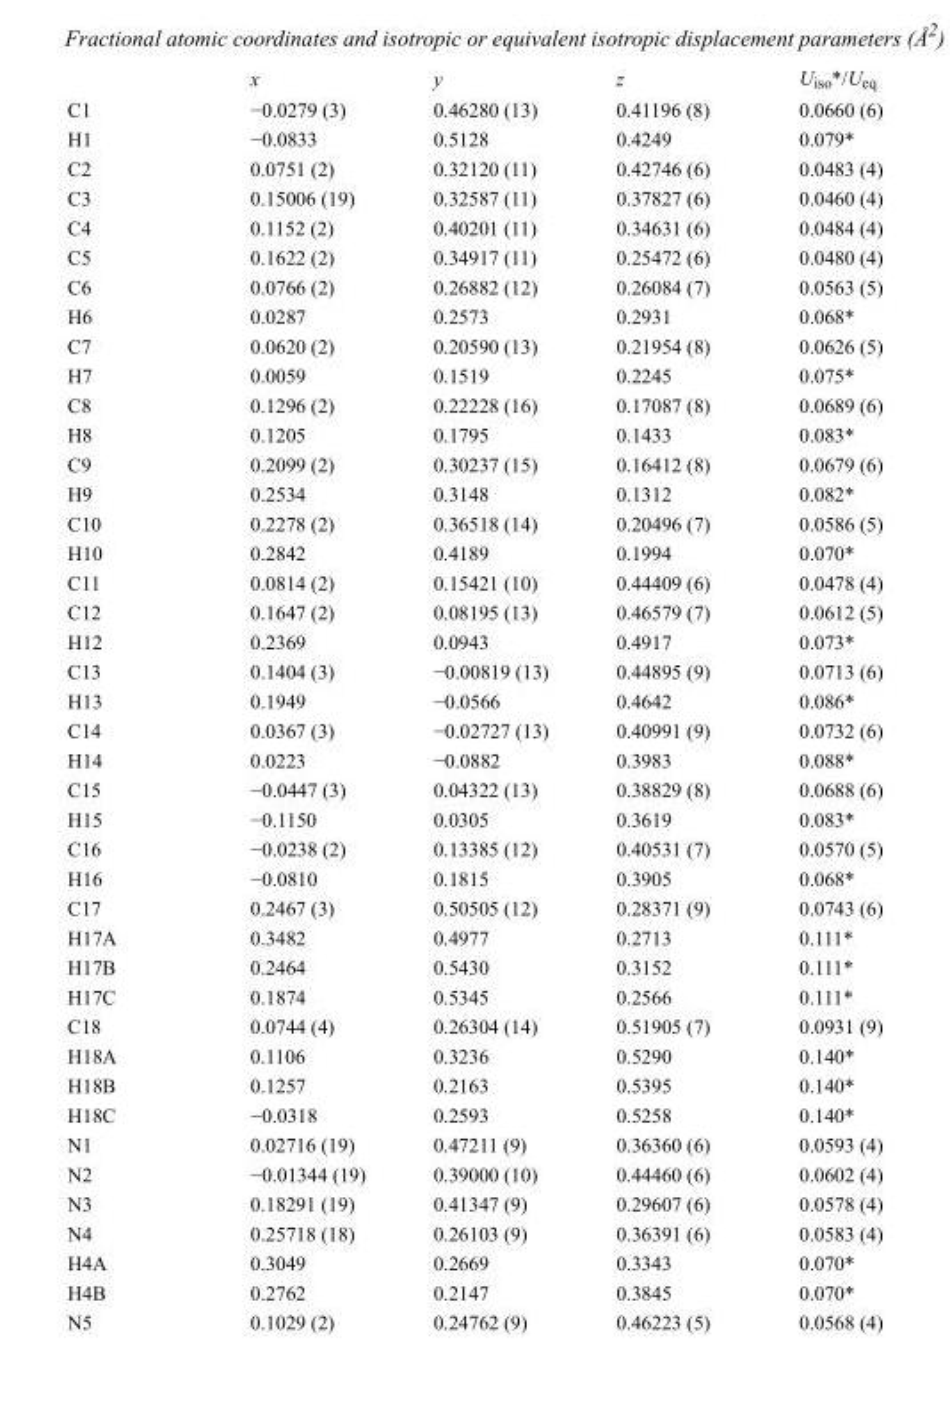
<table><thead><tr><td></td><td>x</td><td>y</td><td>z</td><td>U<sub>iso</sub>*/U<sub>eq</sub></td></tr></thead><tbody><tr><td>C1</td><td>−0.0279 (3)</td><td>0.46280 (13)</td><td>0.41196 (8)</td><td>0.0660 (6)</td></tr><tr><td>H1</td><td>−0.0833</td><td>0.5128</td><td>0.4249</td><td>0.079*</td></tr><tr><td>C2</td><td>0.0751 (2)</td><td>0.32120 (11)</td><td>0.42746 (6)</td><td>0.0483 (4)</td></tr><tr><td>C3</td><td>0.15006 (19)</td><td>0.32587 (11)</td><td>0.37827 (6)</td><td>0.0460 (4)</td></tr><tr><td>C4</td><td>0.1152 (2)</td><td>0.40201 (11)</td><td>0.34631 (6)</td><td>0.0484 (4)</td></tr><tr><td>C5</td><td>0.1622 (2)</td><td>0.34917 (11)</td><td>0.25472 (6)</td><td>0.0480 (4)</td></tr><tr><td>C6</td><td>0.0766 (2)</td><td>0.26882 (12)</td><td>0.26084 (7)</td><td>0.0563 (5)</td></tr><tr><td>H6</td><td>0.0287</td><td>0.2573</td><td>0.2931</td><td>0.068*</td></tr><tr><td>C7</td><td>0.0620 (2)</td><td>0.20590 (13)</td><td>0.21954 (8)</td><td>0.0626 (5)</td></tr><tr><td>H7</td><td>0.0059</td><td>0.1519</td><td>0.2245</td><td>0.075*</td></tr><tr><td>C8</td><td>0.1296 (2)</td><td>0.22228 (16)</td><td>0.17087 (8)</td><td>0.0689 (6)</td></tr><tr><td>H8</td><td>0.1205</td><td>0.1795</td><td>0.1433</td><td>0.083*</td></tr><tr><td>C9</td><td>0.2099 (2)</td><td>0.30237 (15)</td><td>0.16412 (8)</td><td>0.0679 (6)</td></tr><tr><td>H9</td><td>0.2534</td><td>0.3148</td><td>0.1312</td><td>0.082*</td></tr><tr><td>C10</td><td>0.2278 (2)</td><td>0.36518 (14)</td><td>0.20496 (7)</td><td>0.0586 (5)</td></tr><tr><td>H10</td><td>0.2842</td><td>0.4189</td><td>0.1994</td><td>0.070*</td></tr><tr><td>C11</td><td>0.0814 (2)</td><td>0.15421 (10)</td><td>0.44409 (6)</td><td>0.0478 (4)</td></tr><tr><td>C12</td><td>0.1647 (2)</td><td>0.08195 (13)</td><td>0.46579 (7)</td><td>0.0612 (5)</td></tr><tr><td>H12</td><td>0.2369</td><td>0.0943</td><td>0.4917</td><td>0.073*</td></tr><tr><td>C13</td><td>0.1404 (3)</td><td>−0.00819 (13)</td><td>0.44895 (9)</td><td>0.0713 (6)</td></tr><tr><td>H13</td><td>0.1949</td><td>−0.0566</td><td>0.4642</td><td>0.086*</td></tr><tr><td>C14</td><td>0.0367 (3)</td><td>−0.02727 (13)</td><td>0.40991 (9)</td><td>0.0732 (6)</td></tr><tr><td>H14</td><td>0.0223</td><td>−0.0882</td><td>0.3983</td><td>0.088*</td></tr><tr><td>C15</td><td>−0.0447 (3)</td><td>0.04322 (13)</td><td>0.38829 (8)</td><td>0.0688 (6)</td></tr><tr><td>H15</td><td>−0.1150</td><td>0.0305</td><td>0.3619</td><td>0.083*</td></tr><tr><td>C16</td><td>−0.0238 (2)</td><td>0.13385 (12)</td><td>0.40531 (7)</td><td>0.0570 (5)</td></tr><tr><td>H16</td><td>−0.0810</td><td>0.1815</td><td>0.3905</td><td>0.068*</td></tr><tr><td>C17</td><td>0.2467 (3)</td><td>0.50505 (12)</td><td>0.28371 (9)</td><td>0.0743 (6)</td></tr><tr><td>H17A</td><td>0.3482</td><td>0.4977</td><td>0.2713</td><td>0.111*</td></tr><tr><td>H17B</td><td>0.2464</td><td>0.5430</td><td>0.3152</td><td>0.111*</td></tr><tr><td>H17C</td><td>0.1874</td><td>0.5345</td><td>0.2566</td><td>0.111*</td></tr><tr><td>C18</td><td>0.0744 (4)</td><td>0.26304 (14)</td><td>0.51905 (7)</td><td>0.0931 (9)</td></tr><tr><td>H18A</td><td>0.1106</td><td>0.3236</td><td>0.5290</td><td>0.140*</td></tr><tr><td>H18B</td><td>0.1257</td><td>0.2163</td><td>0.5395</td><td>0.140*</td></tr><tr><td>H18C</td><td>−0.0318</td><td>0.2593</td><td>0.5258</td><td>0.140*</td></tr><tr><td>N1</td><td>0.02716 (19)</td><td>0.47211 (9)</td><td>0.36360 (6)</td><td>0.0593 (4)</td></tr><tr><td>N2</td><td>−0.01344 (19)</td><td>0.39000 (10)</td><td>0.44460 (6)</td><td>0.0602 (4)</td></tr><tr><td>N3</td><td>0.18291 (19)</td><td>0.41347 (9)</td><td>0.29607 (6)</td><td>0.0578 (4)</td></tr><tr><td>N4</td><td>0.25718 (18)</td><td>0.26103 (9)</td><td>0.36391 (6)</td><td>0.0583 (4)</td></tr><tr><td>H4A</td><td>0.3049</td><td>0.2669</td><td>0.3343</td><td>0.070*</td></tr><tr><td>H4B</td><td>0.2762</td><td>0.2147</td><td>0.3845</td><td>0.070*</td></tr><tr><td>N5</td><td>0.1029 (2)</td><td>0.24762 (9)</td><td>0.46223 (5)</td><td>0.0568 (4)</td></tr></tbody></table>